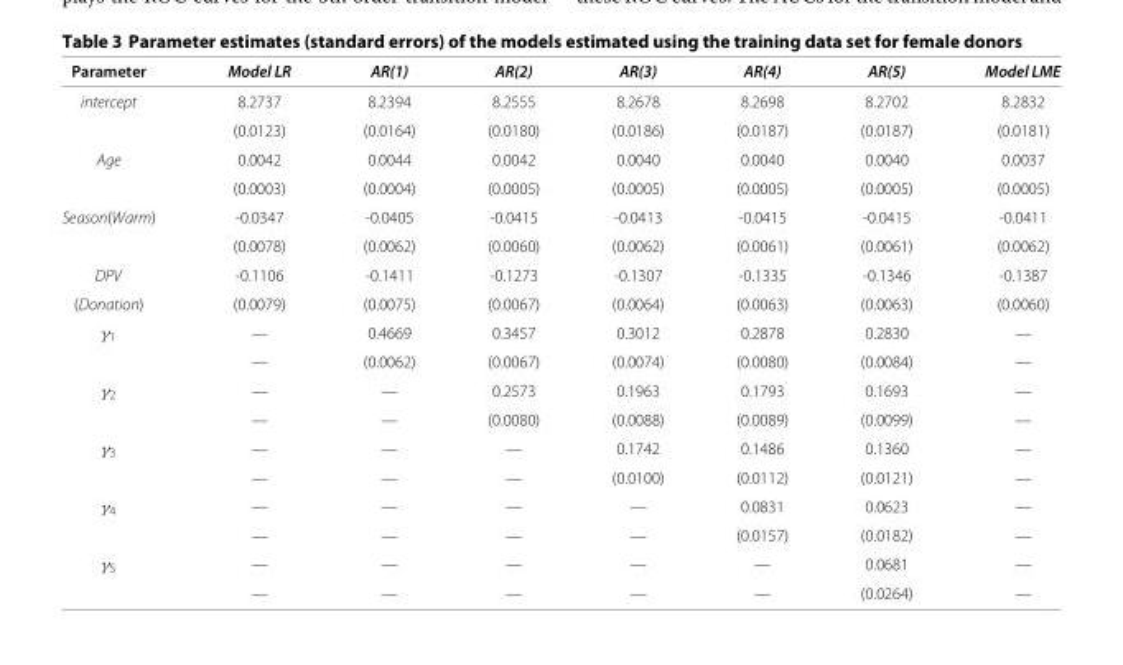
<table><thead><tr><td>Parameter</td><td>Model LR</td><td>AR(1)</td><td>AR(2)</td><td>AR(3)</td><td>AR(4)</td><td>AR(5)</td><td>Model LME</td></tr></thead><tbody><tr><td rowspan="2">intercept</td><td>8.2737</td><td>8.2394</td><td>8.2555</td><td>8.2678</td><td>8.2698</td><td>8.2702</td><td>8.2832</td></tr><tr><td>(0.0123)</td><td>(0.0164)</td><td>(0.0180)</td><td>(0.0186)</td><td>(0.0187)</td><td>(0.0187)</td><td>(0.0181)</td></tr><tr><td rowspan="2">Age</td><td>0.0042</td><td>0.0044</td><td>0.0042</td><td>0.0040</td><td>0.0040</td><td>0.0040</td><td>0.0037</td></tr><tr><td>(0.0003)</td><td>(0.0004)</td><td>(0.0005)</td><td>(0.0005)</td><td>(0.0005)</td><td>(0.0005)</td><td>(0.0005)</td></tr><tr><td rowspan="2">Season(Warm)</td><td>-0.0347</td><td>-0.0405</td><td>-0.0415</td><td>-0.0413</td><td>-0.0415</td><td>-0.0415</td><td>-0.0411</td></tr><tr><td>(0.0078)</td><td>(0.0062)</td><td>(0.0060)</td><td>(0.0062)</td><td>(0.0061)</td><td>(0.0061)</td><td>(0.0062)</td></tr><tr><td>DPV</td><td>-0.1106</td><td>-0.1411</td><td>-0.1273</td><td>-0.1307</td><td>-0.1335</td><td>-0.1346</td><td>-0.1387</td></tr><tr><td>(Donation)</td><td>(0.0079)</td><td>(0.0075)</td><td>(0.0067)</td><td>(0.0064)</td><td>(0.0063)</td><td>(0.0063)</td><td>(0.0060)</td></tr><tr><td rowspan="2">γ<sub>1</sub></td><td>—</td><td>0.4669</td><td>0.3457</td><td>0.3012</td><td>0.2878</td><td>0.2830</td><td>—</td></tr><tr><td>—</td><td>(0.0062)</td><td>(0.0067)</td><td>(0.0074)</td><td>(0.0080)</td><td>(0.0084)</td><td>—</td></tr><tr><td rowspan="2">γ<sub>2</sub></td><td>—</td><td>—</td><td>0.2573</td><td>0.1963</td><td>0.1793</td><td>0.1693</td><td>—</td></tr><tr><td>—</td><td>—</td><td>(0.0080)</td><td>(0.0088)</td><td>(0.0089)</td><td>(0.0099)</td><td>—</td></tr><tr><td rowspan="2">γ<sub>3</sub></td><td>—</td><td>—</td><td>—</td><td>0.1742</td><td>0.1486</td><td>0.1360</td><td>—</td></tr><tr><td>—</td><td>—</td><td>—</td><td>(0.0100)</td><td>(0.0112)</td><td>(0.0121)</td><td>—</td></tr><tr><td rowspan="2">γ<sub>4</sub></td><td>—</td><td>—</td><td>—</td><td>—</td><td>0.0831</td><td>0.0623</td><td>—</td></tr><tr><td>—</td><td>—</td><td>—</td><td>—</td><td>(0.0157)</td><td>(0.0182)</td><td>—</td></tr><tr><td rowspan="2">γ<sub>5</sub></td><td>—</td><td>—</td><td>—</td><td>—</td><td>—</td><td>0.0681</td><td>—</td></tr><tr><td>—</td><td>—</td><td>—</td><td>—</td><td>—</td><td>(0.0264)</td><td>—</td></tr></tbody></table>